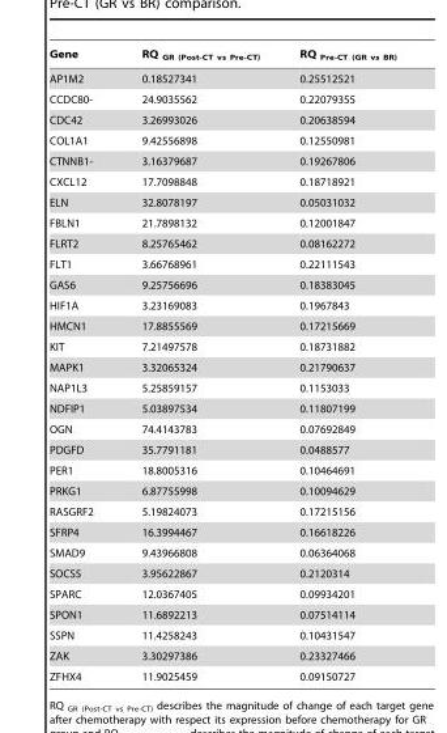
<table><thead><tr><td>Gene</td><td>RQ <sub>GR (Post-CT vs Pre-CT)</sub></td><td>RQ <sub>Pre-CT (GR vs BR)</sub></td></tr></thead><tbody><tr><td>AP1M2</td><td>0.18527341</td><td>0.25512521</td></tr><tr><td>CCDC80-</td><td>24.9035562</td><td>0.22079355</td></tr><tr><td>CDC42</td><td>3.26993026</td><td>0.20638594</td></tr><tr><td>COL1A1</td><td>9.42556898</td><td>0.12550981</td></tr><tr><td>CTNNB1-</td><td>3.16379687</td><td>0.19267806</td></tr><tr><td>CXCL12</td><td>17.7098848</td><td>0.18718921</td></tr><tr><td>ELN</td><td>32.8078197</td><td>0.05031032</td></tr><tr><td>FBLN1</td><td>21.7898132</td><td>0.12001847</td></tr><tr><td>FLRT2</td><td>8.25765462</td><td>0.08162272</td></tr><tr><td>FLT1</td><td>3.66768961</td><td>0.22111543</td></tr><tr><td>GAS6</td><td>9.25756696</td><td>0.18383045</td></tr><tr><td>HIF1A</td><td>3.23169083</td><td>0.1967843</td></tr><tr><td>HMCN1</td><td>17.8855569</td><td>0.17215669</td></tr><tr><td>KIT</td><td>7.21497578</td><td>0.18731882</td></tr><tr><td>MAPK1</td><td>3.32065324</td><td>0.21790637</td></tr><tr><td>NAP1L3</td><td>5.25859157</td><td>0.1153033</td></tr><tr><td>NDFIP1</td><td>5.03897534</td><td>0.11807199</td></tr><tr><td>OGN</td><td>74.4143783</td><td>0.07692849</td></tr><tr><td>PDGFD</td><td>35.7791181</td><td>0.0488577</td></tr><tr><td>PER1</td><td>18.8005316</td><td>0.10464691</td></tr><tr><td>PRKG1</td><td>6.87755998</td><td>0.10094629</td></tr><tr><td>RASGRF2</td><td>5.19824073</td><td>0.17215156</td></tr><tr><td>SFRP4</td><td>16.3994467</td><td>0.16618226</td></tr><tr><td>SMAD9</td><td>9.43966808</td><td>0.06364068</td></tr><tr><td>SOCS5</td><td>3.95622867</td><td>0.2120314</td></tr><tr><td>SPARC</td><td>12.0367405</td><td>0.09934201</td></tr><tr><td>SPON1</td><td>11.6892213</td><td>0.07514114</td></tr><tr><td>SSPN</td><td>11.4258243</td><td>0.10431547</td></tr><tr><td>ZAK</td><td>3.30297386</td><td>0.23327466</td></tr><tr><td>ZFHX4</td><td>11.9025459</td><td>0.09150727</td></tr></tbody></table>